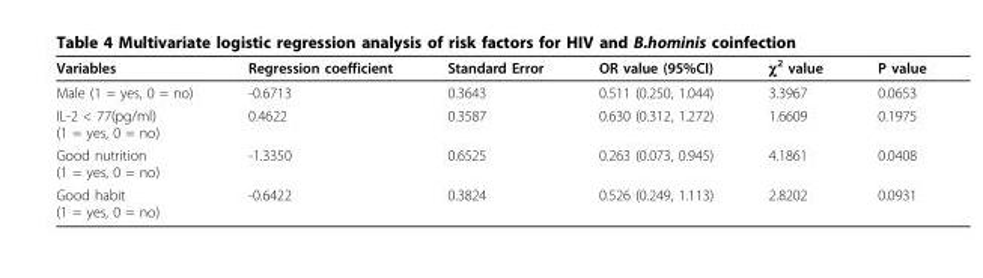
<table><thead><tr><td>Variables</td><td>Regression coefficient</td><td>Standard Error</td><td>OR value (95%CI)</td><td>χ<sup>2</sup> value</td><td>P value</td></tr></thead><tbody><tr><td>Male (1 = yes, 0 = no)</td><td>-0.6713</td><td>0.3643</td><td>0.511 (0.250, 1.044)</td><td>3.3967</td><td>0.0653</td></tr><tr><td>IL-2 &lt; 77(pg/ml) (1 = yes, 0 = no)</td><td>0.4622</td><td>0.3587</td><td>0.630 (0.312, 1.272)</td><td>1.6609</td><td>0.1975</td></tr><tr><td>Good nutrition (1 = yes, 0 = no)</td><td>-1.3350</td><td>0.6525</td><td>0.263 (0.073, 0.945)</td><td>4.1861</td><td>0.0408</td></tr><tr><td>Good habit (1 = yes, 0 = no)</td><td>-0.6422</td><td>0.3824</td><td>0.526 (0.249, 1.113)</td><td>2.8202</td><td>0.0931</td></tr></tbody></table>